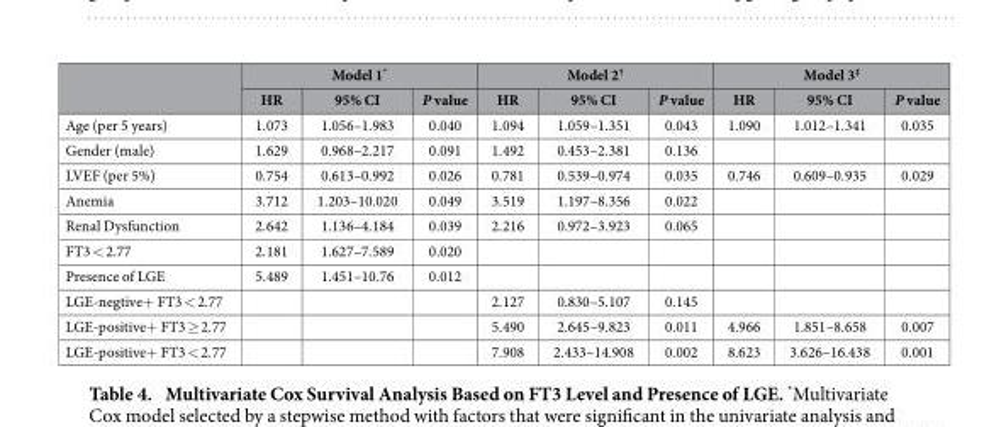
<table><thead><tr><td rowspan="2"></td><td colspan="3">Model 1*</td><td colspan="3">Model 2<sup>†</sup></td><td colspan="3">Model 3<sup>‡</sup></td></tr><tr><td>HR</td><td>95% CI</td><td>P value</td><td>HR</td><td>95% CI</td><td>P value</td><td>HR</td><td>95% CI</td><td>P value</td></tr></thead><tbody><tr><td>Age (per 5 years)</td><td>1.073</td><td>1.056–1.983</td><td>0.040</td><td>1.094</td><td>1.059–1.351</td><td>0.043</td><td>1.090</td><td>1.012–1.341</td><td>0.035</td></tr><tr><td>Gender (male)</td><td>1.629</td><td>0.968–2.217</td><td>0.091</td><td>1.492</td><td>0.453–2.381</td><td>0.136</td><td></td><td></td><td></td></tr><tr><td>LVEF (per 5%)</td><td>0.754</td><td>0.613–0.992</td><td>0.026</td><td>0.781</td><td>0.539–0.974</td><td>0.035</td><td>0.746</td><td>0.609–0.935</td><td>0.029</td></tr><tr><td>Anemia</td><td>3.712</td><td>1.203–10.020</td><td>0.049</td><td>3.519</td><td>1.197–8.356</td><td>0.022</td><td></td><td></td><td></td></tr><tr><td>Renal Dysfunction</td><td>2.642</td><td>1.136–4.184</td><td>0.039</td><td>2.216</td><td>0.972–3.923</td><td>0.065</td><td></td><td></td><td></td></tr><tr><td>FT3 &lt; 2.77</td><td>2.181</td><td>1.627–7.589</td><td>0.020</td><td></td><td></td><td></td><td></td><td></td><td></td></tr><tr><td>Presence of LGE</td><td>5.489</td><td>1.451–10.76</td><td>0.012</td><td></td><td></td><td></td><td></td><td></td><td></td></tr><tr><td>LGE-negtive+ FT3 &lt; 2.77</td><td></td><td></td><td></td><td>2.127</td><td>0.830–5.107</td><td>0.145</td><td></td><td></td><td></td></tr><tr><td>LGE-positive+ FT3 ≥ 2.77</td><td></td><td></td><td></td><td>5.490</td><td>2.645–9.823</td><td>0.011</td><td>4.966</td><td>1.851–8.658</td><td>0.007</td></tr><tr><td>LGE-positive+ FT3 &lt; 2.77</td><td></td><td></td><td></td><td>7.908</td><td>2.433–14.908</td><td>0.002</td><td>8.623</td><td>3.626–16.438</td><td>0.001</td></tr></tbody></table>